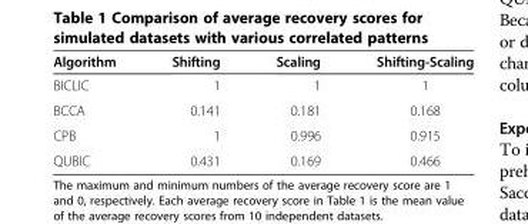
<table><thead><tr><td>Algorithm</td><td>Shifting</td><td>Scaling</td><td>Shifting-Scaling</td></tr></thead><tbody><tr><td>BICLIC</td><td>1</td><td>1</td><td>1</td></tr><tr><td>BCCA</td><td>0.141</td><td>0.181</td><td>0.168</td></tr><tr><td>CPB</td><td>1</td><td>0.996</td><td>0.915</td></tr><tr><td>QUBIC</td><td>0.431</td><td>0.169</td><td>0.466</td></tr></tbody></table>